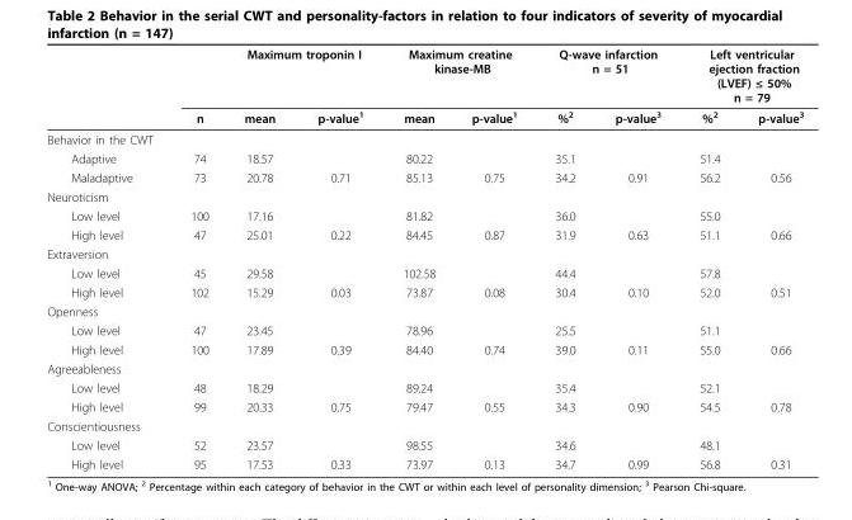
<table><thead><tr><td rowspan="2"></td><td rowspan="2">n</td><td colspan="2">Maximum troponin I</td><td colspan="2">Maximum creatine kinase-MB</td><td colspan="2">Q-wave infarction n = 51</td><td colspan="2">Left ventricular ejection fraction (LVEF) ≤ 50% n = 79</td></tr><tr><td>mean</td><td>p-value<sup>1</sup></td><td>mean</td><td>p-value<sup>1</sup></td><td>%<sup>2</sup></td><td>p-value<sup>3</sup></td><td>%<sup>2</sup></td><td>p-value<sup>3</sup></td></tr></thead><tbody><tr><td colspan="10">Behavior in the CWT</td></tr><tr><td>Adaptive</td><td>74</td><td>18.57</td><td></td><td>80.22</td><td></td><td>35.1</td><td></td><td>51.4</td><td></td></tr><tr><td>Maladaptive</td><td>73</td><td>20.78</td><td>0.71</td><td>85.13</td><td>0.75</td><td>34.2</td><td>0.91</td><td>56.2</td><td>0.56</td></tr><tr><td colspan="10">Neuroticism</td></tr><tr><td>Low level</td><td>100</td><td>17.16</td><td></td><td>81.82</td><td></td><td>36.0</td><td></td><td>55.0</td><td></td></tr><tr><td>High level</td><td>47</td><td>25.01</td><td>0.22</td><td>84.45</td><td>0.87</td><td>31.9</td><td>0.63</td><td>51.1</td><td>0.66</td></tr><tr><td colspan="10">Extraversion</td></tr><tr><td>Low level</td><td>45</td><td>29.58</td><td></td><td>102.58</td><td></td><td>44.4</td><td></td><td>57.8</td><td></td></tr><tr><td>High level</td><td>102</td><td>15.29</td><td>0.03</td><td>73.87</td><td>0.08</td><td>30.4</td><td>0.10</td><td>52.0</td><td>0.51</td></tr><tr><td colspan="10">Openness</td></tr><tr><td>Low level</td><td>47</td><td>23.45</td><td></td><td>78.96</td><td></td><td>25.5</td><td></td><td>51.1</td><td></td></tr><tr><td>High level</td><td>100</td><td>17.89</td><td>0.39</td><td>84.40</td><td>0.74</td><td>39.0</td><td>0.11</td><td>55.0</td><td>0.66</td></tr><tr><td colspan="10">Agreeableness</td></tr><tr><td>Low level</td><td>48</td><td>18.29</td><td></td><td>89.24</td><td></td><td>35.4</td><td></td><td>52.1</td><td></td></tr><tr><td>High level</td><td>99</td><td>20.33</td><td>0.75</td><td>79.47</td><td>0.55</td><td>34.3</td><td>0.90</td><td>54.5</td><td>0.78</td></tr><tr><td colspan="10">Conscientiousness</td></tr><tr><td>Low level</td><td>52</td><td>23.57</td><td></td><td>98.55</td><td></td><td>34.6</td><td></td><td>48.1</td><td></td></tr><tr><td>High level</td><td>95</td><td>17.53</td><td>0.33</td><td>73.97</td><td>0.13</td><td>34.7</td><td>0.99</td><td>56.8</td><td>0.31</td></tr></tbody></table>